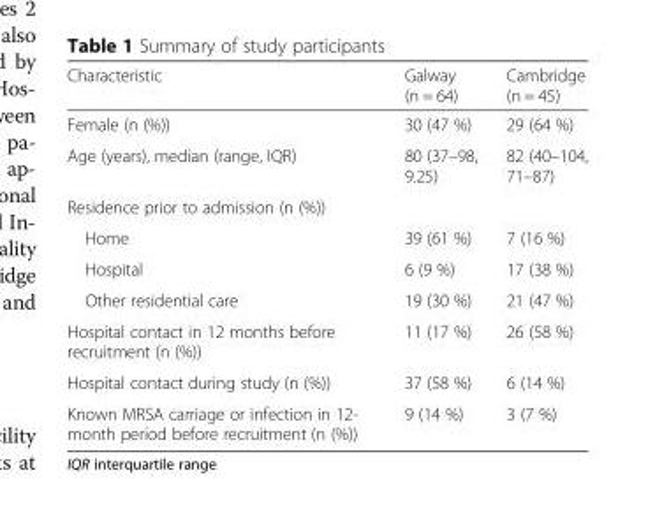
<table><thead><tr><td>Characteristic</td><td>Galway (n = 64)</td><td>Cambridge (n = 45)</td></tr></thead><tbody><tr><td>Female (n (%))</td><td>30 (47 %)</td><td>29 (64 %)</td></tr><tr><td>Age (years), median (range, IQR)</td><td>80 (37–98, 9.25)</td><td>82 (40–104, 71–87)</td></tr><tr><td colspan="3">Residence prior to admission (n (%))</td></tr><tr><td>Home</td><td>39 (61 %)</td><td>7 (16 %)</td></tr><tr><td>Hospital</td><td>6 (9 %)</td><td>17 (38 %)</td></tr><tr><td>Other residential care</td><td>19 (30 %)</td><td>21 (47 %)</td></tr><tr><td>Hospital contact in 12 months before recruitment (n (%))</td><td>11 (17 %)</td><td>26 (58 %)</td></tr><tr><td>Hospital contact during study (n (%))</td><td>37 (58 %)</td><td>6 (14 %)</td></tr><tr><td>Known MRSA carriage or infection in 12- month period before recruitment (n (%))</td><td>9 (14 %)</td><td>3 (7 %)</td></tr></tbody></table>